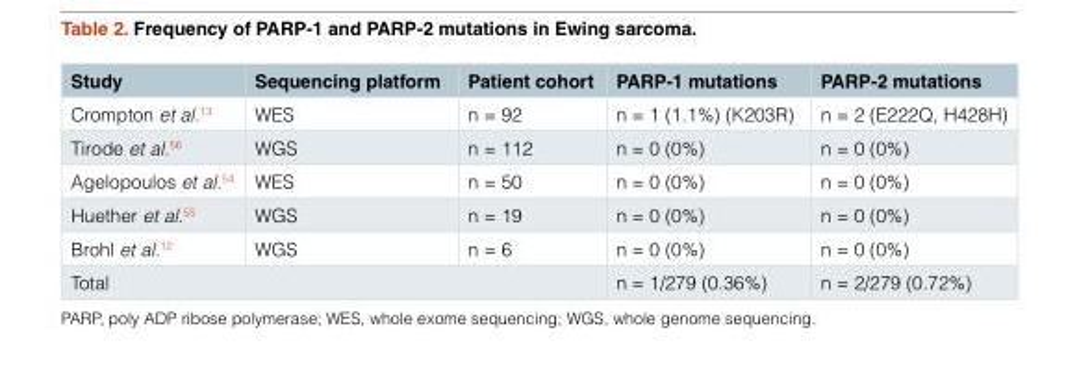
<table><thead><tr><td>Study</td><td>Sequencing platform</td><td>Patient cohort</td><td>PARP-1 mutations</td><td>PARP-2 mutations</td></tr></thead><tbody><tr><td>Crompton et al.<sup>13</sup></td><td>WES</td><td>n = 92</td><td>n = 1 (1.1%) (K203R)</td><td>n = 2 (E222Q, H428H)</td></tr><tr><td>Tirode et al.<sup>56</sup></td><td>WGS</td><td>n = 112</td><td>n = 0 (0%)</td><td>n = 0 (0%)</td></tr><tr><td>Agelopoulos et al.<sup>54</sup></td><td>WES</td><td>n = 50</td><td>n = 0 (0%)</td><td>n = 0 (0%)</td></tr><tr><td>Huether et al.<sup>55</sup></td><td>WGS</td><td>n = 19</td><td>n = 0 (0%)</td><td>n = 0 (0%)</td></tr><tr><td>Brohl et al.<sup>12</sup></td><td>WGS</td><td>n = 6</td><td>n = 0 (0%)</td><td>n = 0 (0%)</td></tr><tr><td colspan="3">Total</td><td>n = 1/279 (0.36%)</td><td>n = 2/279 (0.72%)</td></tr></tbody></table>